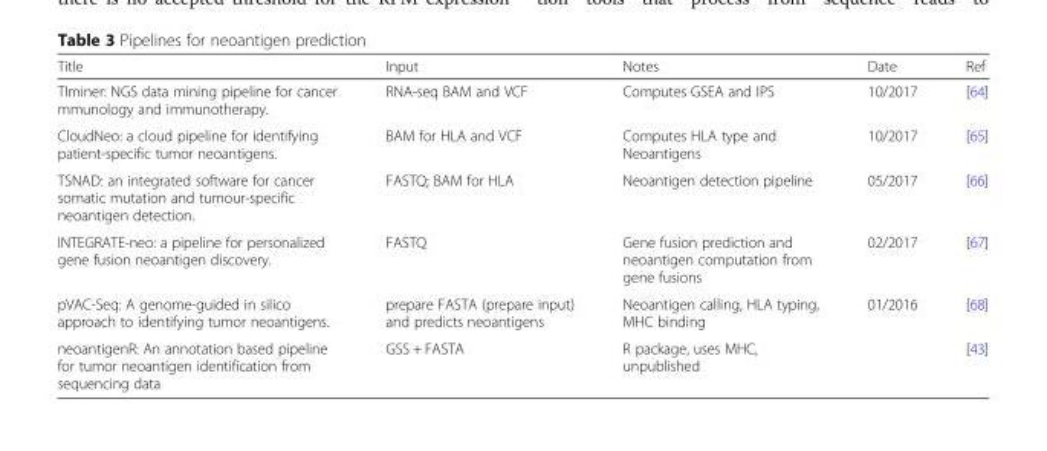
<table><thead><tr><td>Title</td><td>Input</td><td>Notes</td><td>Date</td><td>Ref</td></tr></thead><tbody><tr><td>TIminer: NGS data mining pipeline for cancer mmunology and immunotherapy.</td><td>RNA-seq BAM and VCF</td><td>Computes GSEA and IPS</td><td>10/2017</td><td>[64]</td></tr><tr><td>CloudNeo: a cloud pipeline for identifying patient-specific tumor neoantigens.</td><td>BAM for HLA and VCF</td><td>Computes HLA type and Neoantigens</td><td>10/2017</td><td>[65]</td></tr><tr><td>TSNAD: an integrated software for cancer somatic mutation and tumour-specific neoantigen detection.</td><td>FASTQ; BAM for HLA</td><td>Neoantigen detection pipeline</td><td>05/2017</td><td>[66]</td></tr><tr><td>INTEGRATE-neo: a pipeline for personalized gene fusion neoantigen discovery.</td><td>FASTQ</td><td>Gene fusion prediction and neoantigen computation from gene fusions</td><td>02/2017</td><td>[67]</td></tr><tr><td>pVAC-Seq: A genome-guided in silico approach to identifying tumor neoantigens.</td><td>prepare FASTA (prepare input) and predicts neoantigens</td><td>Neoantigen calling, HLA typing, MHC binding</td><td>01/2016</td><td>[68]</td></tr><tr><td>neoantigenR: An annotation based pipeline for tumor neoantigen identification from sequencing data</td><td>GSS + FASTA</td><td>R package, uses MHC, unpublished</td><td></td><td>[43]</td></tr></tbody></table>